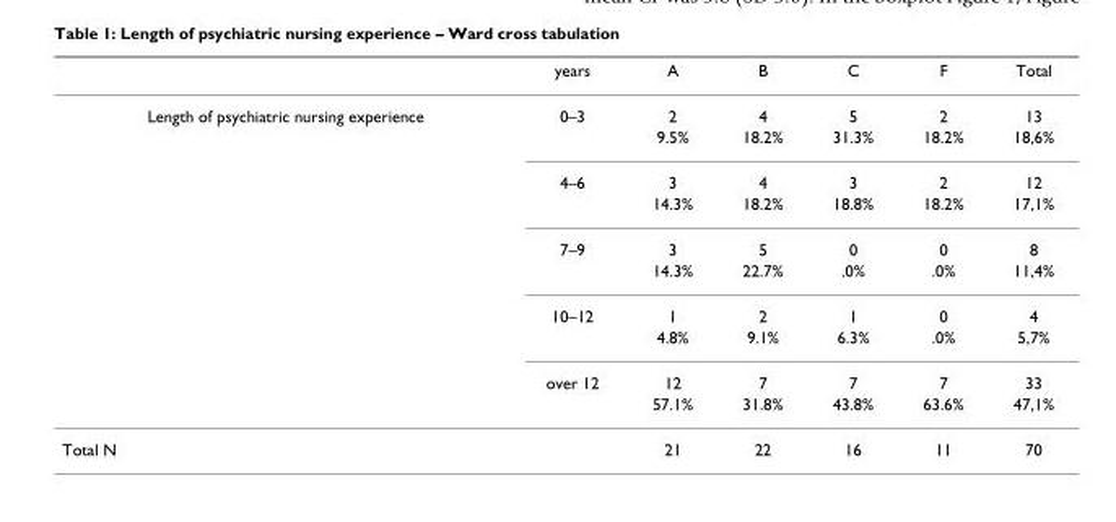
<table><thead><tr><td></td><td>years</td><td>A</td><td>B</td><td>C</td><td>F</td><td>Total</td></tr></thead><tbody><tr><td rowspan="10">Length of psychiatric nursing experience</td><td>0–3</td><td>2</td><td>4</td><td>5</td><td>2</td><td>13</td></tr><tr><td></td><td>9.5%</td><td>18.2%</td><td>31.3%</td><td>18.2%</td><td>18,6%</td></tr><tr><td>4–6</td><td>3</td><td>4</td><td>3</td><td>2</td><td>12</td></tr><tr><td></td><td>14.3%</td><td>18.2%</td><td>18.8%</td><td>18.2%</td><td>17,1%</td></tr><tr><td>7–9</td><td>3</td><td>5</td><td>0</td><td>0</td><td>8</td></tr><tr><td></td><td>14.3%</td><td>22.7%</td><td>.0%</td><td>.0%</td><td>11,4%</td></tr><tr><td>10–12</td><td>1</td><td>2</td><td>1</td><td>0</td><td>4</td></tr><tr><td></td><td>4.8%</td><td>9.1%</td><td>6.3%</td><td>.0%</td><td>5,7%</td></tr><tr><td>over 12</td><td>12</td><td>7</td><td>7</td><td>7</td><td>33</td></tr><tr><td></td><td>57.1%</td><td>31.8%</td><td>43.8%</td><td>63.6%</td><td>47,1%</td></tr><tr><td colspan="2">Total N</td><td>21</td><td>22</td><td>16</td><td>11</td><td>70</td></tr></tbody></table>